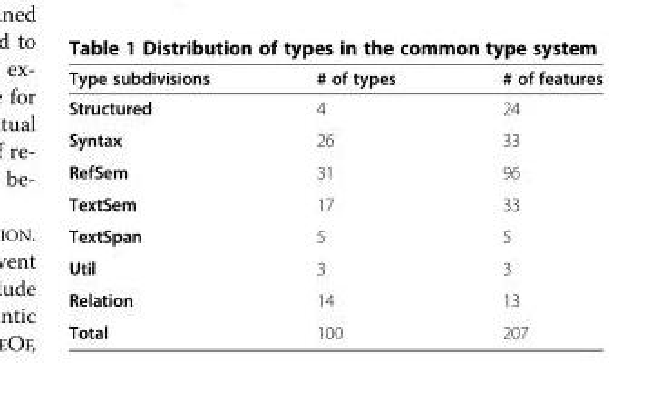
<table><thead><tr><td>Type subdivisions</td><td># of types</td><td># of features</td></tr></thead><tbody><tr><td>Structured</td><td>4</td><td>24</td></tr><tr><td>Syntax</td><td>26</td><td>33</td></tr><tr><td>RefSem</td><td>31</td><td>96</td></tr><tr><td>TextSem</td><td>17</td><td>33</td></tr><tr><td>TextSpan</td><td>5</td><td>5</td></tr><tr><td>Util</td><td>3</td><td>3</td></tr><tr><td>Relation</td><td>14</td><td>13</td></tr><tr><td>Total</td><td>100</td><td>207</td></tr></tbody></table>